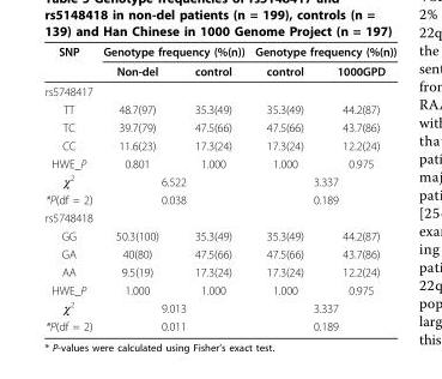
<table><thead><tr><td rowspan="2">SNP</td><td colspan="2">Genotype frequency (%(n))</td><td colspan="2">Genotype frequency (%(n))</td></tr><tr><td>Non-del</td><td>control</td><td>control</td><td>1000GPD</td></tr></thead><tbody><tr><td colspan="5">rs5748417</td></tr><tr><td>TT</td><td>48.7(97)</td><td>35.3(49)</td><td>35.3(49)</td><td>44.2(87)</td></tr><tr><td>TC</td><td>39.7(79)</td><td>47.5(66)</td><td>47.5(66)</td><td>43.7(86)</td></tr><tr><td>CC</td><td>11.6(23)</td><td>17.3(24)</td><td>17.3(24)</td><td>12.2(24)</td></tr><tr><td>HWE_P</td><td>0.801</td><td>1.000</td><td>1.000</td><td>0.975</td></tr><tr><td>χ<sup>2</sup></td><td colspan="2">6.522</td><td colspan="2">3.337</td></tr><tr><td>*P(df = 2)</td><td colspan="2">0.038</td><td colspan="2">0.189</td></tr><tr><td colspan="5">rs5748418</td></tr><tr><td>GG</td><td>50.3(100)</td><td>35.3(49)</td><td>35.3(49)</td><td>44.2(87)</td></tr><tr><td>GA</td><td>40(80)</td><td>47.5(66)</td><td>47.5(66)</td><td>43.7(86)</td></tr><tr><td>AA</td><td>9.5(19)</td><td>17.3(24)</td><td>17.3(24)</td><td>12.2(24)</td></tr><tr><td>HWE_P</td><td>1.000</td><td>1.000</td><td>1.000</td><td>0.975</td></tr><tr><td>χ<sup>2</sup></td><td colspan="2">9.013</td><td colspan="2">3.337</td></tr><tr><td>*P(df = 2)</td><td colspan="2">0.011</td><td colspan="2">0.189</td></tr></tbody></table>